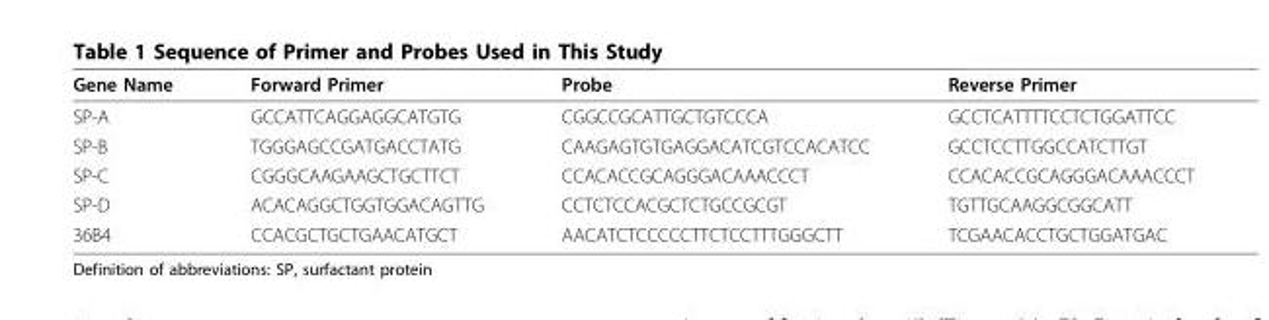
<table><thead><tr><td>Gene Name</td><td>Forward Primer</td><td>Probe</td><td>Reverse Primer</td></tr></thead><tbody><tr><td>SP-A</td><td>GCCATTCAGGAGGCATGTG</td><td>CGGCCGCATTGCTGTCCCA</td><td>GCCTCATTTTCCTCTGGATTCC</td></tr><tr><td>SP-B</td><td>TGGGAGCCGATGACCTATG</td><td>CAAGAGTGTGAGGACATCGTCCACATCC</td><td>GCCTCCTTGGCCATCTTGT</td></tr><tr><td>SP-C</td><td>CGGGCAAGAAGCTGCTTCT</td><td>CCACACCGCAGGGACAAACCCT</td><td>CCACACCGCAGGGACAAACCCT</td></tr><tr><td>SP-D</td><td>ACACAGGCTGGTGGACAGTTG</td><td>CCTCTCCACGCTCTGCCGCGT</td><td>TGTTGCAAGGCGGCATT</td></tr><tr><td>36B4</td><td>CCACGCTGCTGAACATGCT</td><td>AACATCTCCCCCTTCTCCTTTGGGCTT</td><td>TCGAACACCTGCTGGATGAC</td></tr></tbody></table>